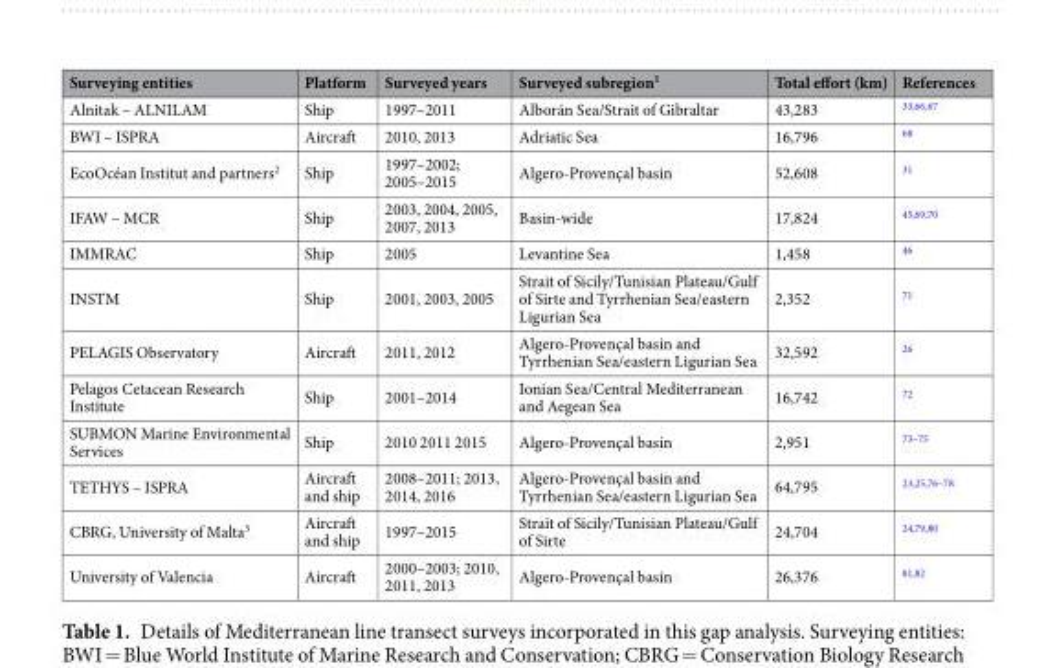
<table><thead><tr><td>Surveying entities</td><td>Platform</td><td>Surveyed years</td><td>Surveyed subregion<sup>1</sup></td><td>Total effort (km)</td><td>References</td></tr></thead><tbody><tr><td>Alnitak – ALNILAM</td><td>Ship</td><td>1997–2011</td><td>Alborán Sea/Strait of Gibraltar</td><td>43,283</td><td><sup>33,66,67</sup></td></tr><tr><td>BWI – ISPRA</td><td>Aircraft</td><td>2010, 2013</td><td>Adriatic Sea</td><td>16,796</td><td><sup>68</sup></td></tr><tr><td>EcoOcéan Institut and partners<sup>2</sup></td><td>Ship</td><td>1997–2002; 2005–2015</td><td>Algero-Provençal basin</td><td>52,608</td><td><sup>31</sup></td></tr><tr><td>IFAW – MCR</td><td>Ship</td><td>2003, 2004, 2005, 2007, 2013</td><td>Basin-wide</td><td>17,824</td><td><sup>45,69,70</sup></td></tr><tr><td>IMMRAC</td><td>Ship</td><td>2005</td><td>Levantine Sea</td><td>1,458</td><td><sup>46</sup></td></tr><tr><td>INSTM</td><td>Ship</td><td>2001, 2003, 2005</td><td>Strait of Sicily/Tunisian Plateau/Gulf of Sirte and Tyrrhenian Sea/eastern Ligurian Sea</td><td>2,352</td><td><sup>71</sup></td></tr><tr><td>PELAGIS Observatory</td><td>Aircraft</td><td>2011, 2012</td><td>Algero-Provençal basin and Tyrrhenian Sea/eastern Ligurian Sea</td><td>32,592</td><td><sup>26</sup></td></tr><tr><td>Pelagos Cetacean Research Institute</td><td>Ship</td><td>2001–2014</td><td>Ionian Sea/Central Mediterranean and Aegean Sea</td><td>16,742</td><td><sup>72</sup></td></tr><tr><td>SUBMON Marine Environmental Services</td><td>Ship</td><td>2010 2011 2015</td><td>Algero-Provençal basin</td><td>2,951</td><td><sup>73–75</sup></td></tr><tr><td>TETHYS – ISPRA</td><td>Aircraft and ship</td><td>2008–2011; 2013, 2014, 2016</td><td>Algero-Provençal basin and Tyrrhenian Sea/eastern Ligurian Sea</td><td>64,795</td><td><sup>23,25,76–78</sup></td></tr><tr><td>CBRG, University of Malta<sup>3</sup></td><td>Aircraft and ship</td><td>1997–2015</td><td>Strait of Sicily/Tunisian Plateau/Gulf of Sirte</td><td>24,704</td><td><sup>24,79,80</sup></td></tr><tr><td>University of Valencia</td><td>Aircraft</td><td>2000–2003; 2010, 2011, 2013</td><td>Algero-Provençal basin</td><td>26,376</td><td><sup>81,82</sup></td></tr></tbody></table>